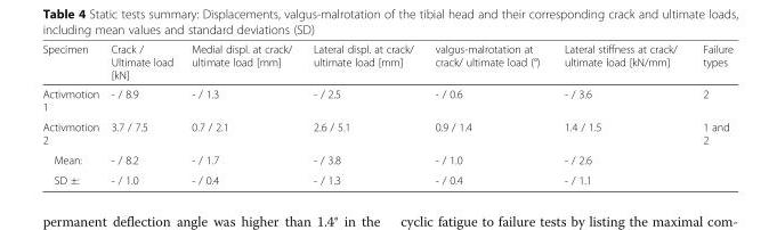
<table><thead><tr><td>Specimen</td><td>Crack / Ultimate load [kN]</td><td>Medial displ. at crack/ ultimate load [mm]</td><td>Lateral displ. at crack/ ultimate load [mm]</td><td>valgus-malrotation at crack/ ultimate load (°)</td><td>Lateral stiffness at crack/ ultimate load [kN/mm]</td><td>Failure types</td></tr></thead><tbody><tr><td>Activmotion 1</td><td>- / 8.9</td><td>- / 1.3</td><td>- / 2.5</td><td>- / 0.6</td><td>- / 3.6</td><td>2</td></tr><tr><td>Activmotion 2</td><td>3.7 / 7.5</td><td>0.7 / 2.1</td><td>2.6 / 5.1</td><td>0.9 / 1.4</td><td>1.4 / 1.5</td><td>1 and 2</td></tr><tr><td>Mean:</td><td>- / 8.2</td><td>- / 1.7</td><td>- / 3.8</td><td>- / 1.0</td><td>- / 2.6</td><td></td></tr><tr><td>SD ±:</td><td>- / 1.0</td><td>- / 0.4</td><td>- / 1.3</td><td>- / 0.4</td><td>- / 1.1</td><td></td></tr></tbody></table>